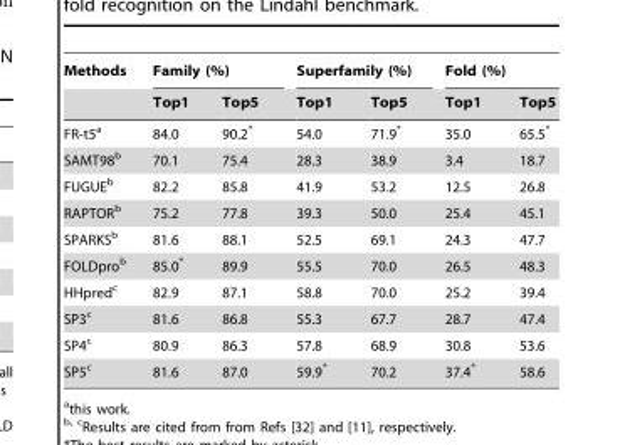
<table><thead><tr><td rowspan="2">Methods</td><td colspan="2">Family (%)</td><td colspan="2">Superfamily (%)</td><td colspan="2">Fold (%)</td></tr><tr><td>Top1</td><td>Top5</td><td>Top1</td><td>Top5</td><td>Top1</td><td>Top5</td></tr></thead><tbody><tr><td>FR-t5<sup>a</sup></td><td>84.0</td><td>90.2*</td><td>54.0</td><td>71.9*</td><td>35.0</td><td>65.5*</td></tr><tr><td>SAMT98<sup>b</sup></td><td>70.1</td><td>75.4</td><td>28.3</td><td>38.9</td><td>3.4</td><td>18.7</td></tr><tr><td>FUGUE<sup>b</sup></td><td>82.2</td><td>85.8</td><td>41.9</td><td>53.2</td><td>12.5</td><td>26.8</td></tr><tr><td>RAPTOR<sup>b</sup></td><td>75.2</td><td>77.8</td><td>39.3</td><td>50.0</td><td>25.4</td><td>45.1</td></tr><tr><td>SPARKS<sup>b</sup></td><td>81.6</td><td>88.1</td><td>52.5</td><td>69.1</td><td>24.3</td><td>47.7</td></tr><tr><td>FOLDpro<sup>b</sup></td><td>85.0*</td><td>89.9</td><td>55.5</td><td>70.0</td><td>26.5</td><td>48.3</td></tr><tr><td>HHpred<sup>c</sup></td><td>82.9</td><td>87.1</td><td>58.8</td><td>70.0</td><td>25.2</td><td>39.4</td></tr><tr><td>SP3<sup>c</sup></td><td>81.6</td><td>86.8</td><td>55.3</td><td>67.7</td><td>28.7</td><td>47.4</td></tr><tr><td>SP4<sup>c</sup></td><td>80.9</td><td>86.3</td><td>57.8</td><td>68.9</td><td>30.8</td><td>53.6</td></tr><tr><td>SP5<sup>c</sup></td><td>81.6</td><td>87.0</td><td>59.9*</td><td>70.2</td><td>37.4*</td><td>58.6</td></tr></tbody></table>